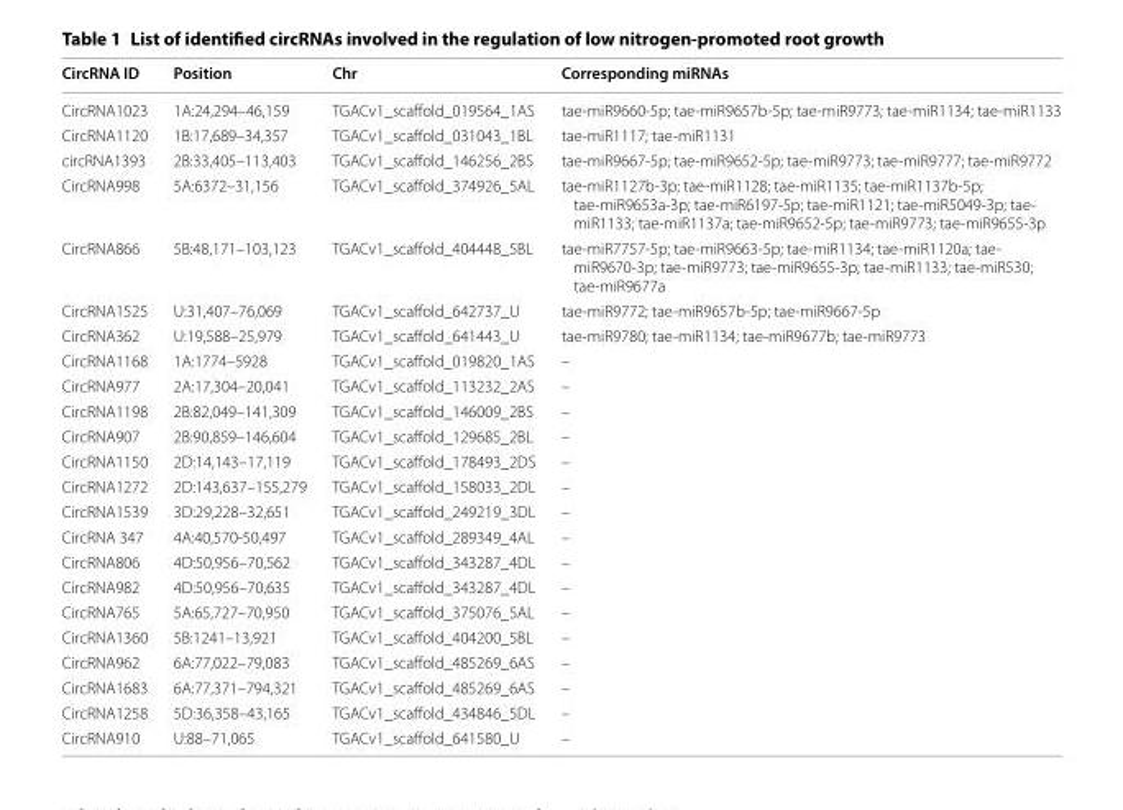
<table><thead><tr><td>CircRNA ID</td><td>Position</td><td>Chr</td><td>Corresponding miRNAs</td></tr></thead><tbody><tr><td>CircRNA1023</td><td>1A:24,294–46,159</td><td>TGACv1_scaffold_019564_1AS</td><td>tae-miR9660-5p; tae-miR9657b-5p; tae-miR9773; tae-miR1134; tae-miR1133</td></tr><tr><td>CircRNA1120</td><td>1B:17,689–34,357</td><td>TGACv1_scaffold_031043_1BL</td><td>tae-miR1117; tae-miR1131</td></tr><tr><td>circRNA1393</td><td>2B:33,405–113,403</td><td>TGACv1_scaffold_146256_2BS</td><td>tae-miR9667-5p; tae-miR9652-5p; tae-miR9773; tae-miR9777; tae-miR9772</td></tr><tr><td>CircRNA998</td><td>5A:6372–31,156</td><td>TGACv1_scaffold_374926_5AL</td><td>tae-miR1127b-3p; tae-miR1128; tae-miR1135; tae-miR1137b-5p; tae-miR9653a-3p; tae-miR6197-5p; tae-miR1121; tae-miR5049-3p; tae- miR1133; tae-miR1137a; tae-miR9652-5p; tae-miR9773; tae-miR9655-3p</td></tr><tr><td>CircRNA866</td><td>5B:48,171–103,123</td><td>TGACv1_scaffold_404448_5BL</td><td>tae-miR7757-5p; tae-miR9663-5p; tae-miR1134; tae-miR1120a; tae- miR9670-3p; tae-miR9773; tae-miR9655-3p; tae-miR1133; tae-miR530; tae-miR9677a</td></tr><tr><td>CircRNA1525</td><td>U:31,407–76,069</td><td>TGACv1_scaffold_642737_U</td><td>tae-miR9772; tae-miR9657b-5p; tae-miR9667-5p</td></tr><tr><td>CircRNA362</td><td>U:19,588–25,979</td><td>TGACv1_scaffold_641443_U</td><td>tae-miR9780; tae-miR1134; tae-miR9677b; tae-miR9773</td></tr><tr><td>CircRNA1168</td><td>1A:1774–5928</td><td>TGACv1_scaffold_019820_1AS</td><td>–</td></tr><tr><td>CircRNA977</td><td>2A:17,304–20,041</td><td>TGACv1_scaffold_113232_2AS</td><td>–</td></tr><tr><td>CircRNA1198</td><td>2B:82,049–141,309</td><td>TGACv1_scaffold_146009_2BS</td><td>–</td></tr><tr><td>CircRNA907</td><td>2B:90,859–146,604</td><td>TGACv1_scaffold_129685_2BL</td><td>–</td></tr><tr><td>CircRNA1150</td><td>2D:14,143–17,119</td><td>TGACv1_scaffold_178493_2DS</td><td>–</td></tr><tr><td>CircRNA1272</td><td>2D:143,637–155,279</td><td>TGACv1_scaffold_158033_2DL</td><td>–</td></tr><tr><td>CircRNA1539</td><td>3D:29,228–32,651</td><td>TGACv1_scaffold_249219_3DL</td><td>–</td></tr><tr><td>CircRNA 347</td><td>4A:40,570-50,497</td><td>TGACv1_scaffold_289349_4AL</td><td>–</td></tr><tr><td>CircRNA806</td><td>4D:50,956–70,562</td><td>TGACv1_scaffold_343287_4DL</td><td>–</td></tr><tr><td>CircRNA982</td><td>4D:50,956–70,635</td><td>TGACv1_scaffold_343287_4DL</td><td>–</td></tr><tr><td>CircRNA765</td><td>5A:65,727–70,950</td><td>TGACv1_scaffold_375076_5AL</td><td>–</td></tr><tr><td>CircRNA1360</td><td>5B:1241–13,921</td><td>TGACv1_scaffold_404200_5BL</td><td>–</td></tr><tr><td>CircRNA962</td><td>6A:77,022–79,083</td><td>TGACv1_scaffold_485269_6AS</td><td>–</td></tr><tr><td>CircRNA1683</td><td>6A:77,371–794,321</td><td>TGACv1_scaffold_485269_6AS</td><td>–</td></tr><tr><td>CircRNA1258</td><td>5D:36,358–43,165</td><td>TGACv1_scaffold_434846_5DL</td><td>–</td></tr><tr><td>CircRNA910</td><td>U:88–71,065</td><td>TGACv1_scaffold_641580_U</td><td>–</td></tr></tbody></table>